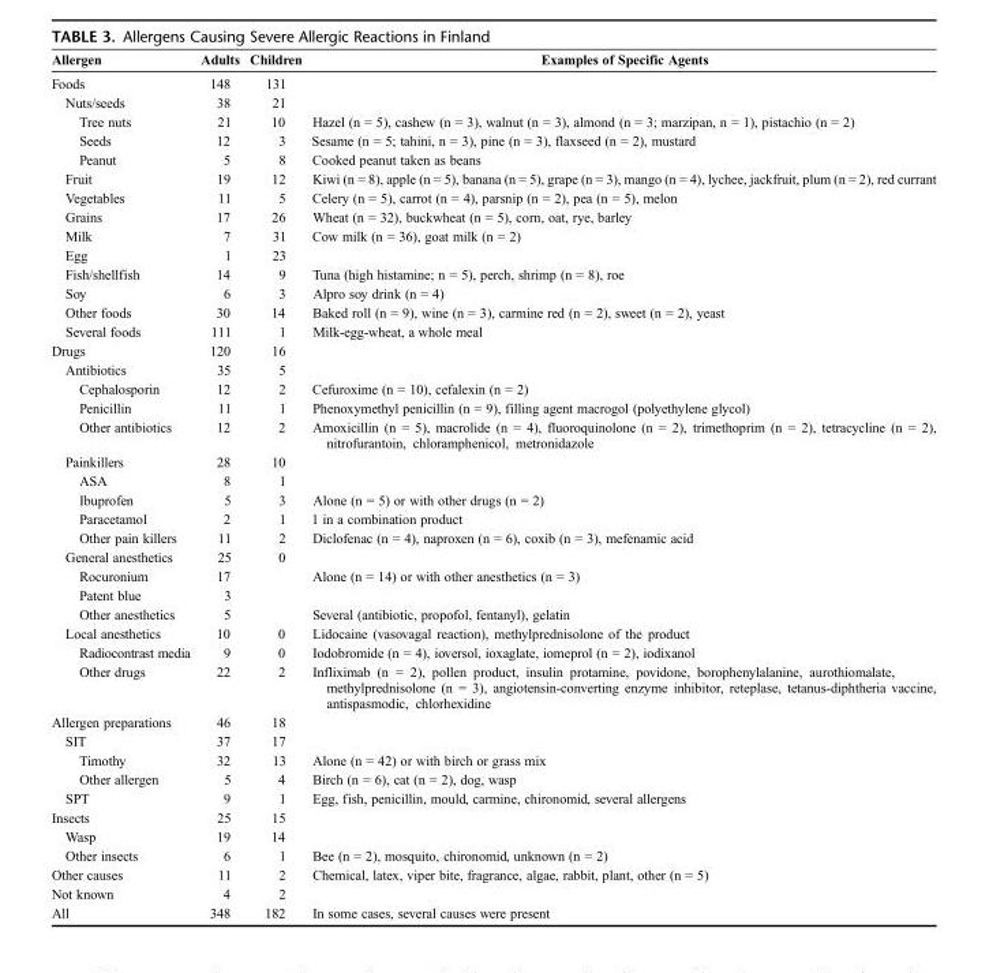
<table><thead><tr><td>Allergen</td><td>Adults</td><td>Children</td><td>Examples of Specific Agents</td></tr></thead><tbody><tr><td>Foods</td><td>148</td><td>131</td><td></td></tr><tr><td>Nuts/seeds</td><td>38</td><td>21</td><td></td></tr><tr><td>Tree nuts</td><td>21</td><td>10</td><td>Hazel (n = 5), cashew (n = 3), walnut (n = 3), almond (n = 3; marzipan, n = 1), pistachio (n = 2)</td></tr><tr><td>Seeds</td><td>12</td><td>3</td><td>Sesame (n = 5; tahini, n = 3), pine (n = 3), flaxseed (n = 2), mustard</td></tr><tr><td>Peanut</td><td>5</td><td>8</td><td>Cooked peanut taken as beans</td></tr><tr><td>Fruit</td><td>19</td><td>12</td><td>Kiwi (n = 8), apple (n = 5), banana (n = 5), grape (n = 3), mango (n = 4), lychee, jackfruit, plum (n = 2), red currant</td></tr><tr><td>Vegetables</td><td>11</td><td>5</td><td>Celery (n = 5), carrot (n = 4), parsnip (n = 2), pea (n = 5), melon</td></tr><tr><td>Grains</td><td>17</td><td>26</td><td>Wheat (n = 32), buckwheat (n = 5), corn, oat, rye, barley</td></tr><tr><td>Milk</td><td>7</td><td>31</td><td>Cow milk (n = 36), goat milk (n = 2)</td></tr><tr><td>Egg</td><td>1</td><td>23</td><td></td></tr><tr><td>Fish/shellfish</td><td>14</td><td>9</td><td>Tuna (high histamine; n = 5), perch, shrimp (n = 8), roe</td></tr><tr><td>Soy</td><td>6</td><td>3</td><td>Alpro soy drink (n = 4)</td></tr><tr><td>Other foods</td><td>30</td><td>14</td><td>Baked roll (n = 9), wine (n = 3), carmine red (n = 2), sweet (n = 2), yeast</td></tr><tr><td>Several foods</td><td>111</td><td>1</td><td>Milk-egg-wheat, a whole meal</td></tr><tr><td>Drugs</td><td>120</td><td>16</td><td></td></tr><tr><td>Antibiotics</td><td>35</td><td>5</td><td></td></tr><tr><td>Cephalosporin</td><td>12</td><td>2</td><td>Cefuroxime (n = 10), cefalexin (n = 2)</td></tr><tr><td>Penicillin</td><td>11</td><td>1</td><td>Phenoxymethyl penicillin (n = 9), filling agent macrogol (polyethylene glycol)</td></tr><tr><td>Other antibiotics</td><td>12</td><td>2</td><td>Amoxicillin (n = 5), macrolide (n = 4), fluoroquinolone (n = 2), trimethoprim (n = 2), tetracycline (n = 2), nitrofurantoin, chloramphenicol, metronidazole</td></tr><tr><td>Painkillers</td><td>28</td><td>10</td><td></td></tr><tr><td>ASA</td><td>8</td><td>1</td><td></td></tr><tr><td>Ibuprofen</td><td>5</td><td>3</td><td>Alone (n = 5) or with other drugs (n = 2)</td></tr><tr><td>Paracetamol</td><td>2</td><td>1</td><td>1 in a combination product</td></tr><tr><td>Other pain killers</td><td>11</td><td>2</td><td>Diclofenac (n = 4), naproxen (n = 6), coxib (n = 3), mefenamic acid</td></tr><tr><td>General anesthetics</td><td>25</td><td>0</td><td></td></tr><tr><td>Rocuronium</td><td>17</td><td></td><td>Alone (n = 14) or with other anesthetics (n = 3)</td></tr><tr><td>Patent blue</td><td>3</td><td></td><td></td></tr><tr><td>Other anesthetics</td><td>5</td><td></td><td>Several (antibiotic, propofol, fentanyl), gelatin</td></tr><tr><td>Local anesthetics</td><td>10</td><td>0</td><td>Lidocaine (vasovagal reaction), methylprednisolone of the product</td></tr><tr><td>Radiocontrast media</td><td>9</td><td>0</td><td>Iodobromide (n = 4), ioversol, ioxaglate, iomeprol (n = 2), iodixanol</td></tr><tr><td>Other drugs</td><td>22</td><td>2</td><td>Infliximab (n = 2), pollen product, insulin protamine, povidone, borophenylalanine, aurothiomalate, methylprednisolone (n = 3), angiotensin-converting enzyme inhibitor, reteplase, tetanus-diphtheria vaccine, antispasmodic, chlorhexidine</td></tr><tr><td>Allergen preparations</td><td>46</td><td>18</td><td></td></tr><tr><td>SIT</td><td>37</td><td>17</td><td></td></tr><tr><td>Timothy</td><td>32</td><td>13</td><td>Alone (n = 42) or with birch or grass mix</td></tr><tr><td>Other allergen</td><td>5</td><td>4</td><td>Birch (n = 6), cat (n = 2), dog, wasp</td></tr><tr><td>SPT</td><td>9</td><td>1</td><td>Egg, fish, penicillin, mould, carmine, chironomid, several allergens</td></tr><tr><td>Insects</td><td>25</td><td>15</td><td></td></tr><tr><td>Wasp</td><td>19</td><td>14</td><td></td></tr><tr><td>Other insects</td><td>6</td><td>1</td><td>Bee (n = 2), mosquito, chironomid, unknown (n = 2)</td></tr><tr><td>Other causes</td><td>11</td><td>2</td><td>Chemical, latex, viper bite, fragrance, algae, rabbit, plant, other (n = 5)</td></tr><tr><td>Not known</td><td>4</td><td>2</td><td></td></tr><tr><td>All</td><td>348</td><td>182</td><td>In some cases, several causes were present</td></tr></tbody></table>